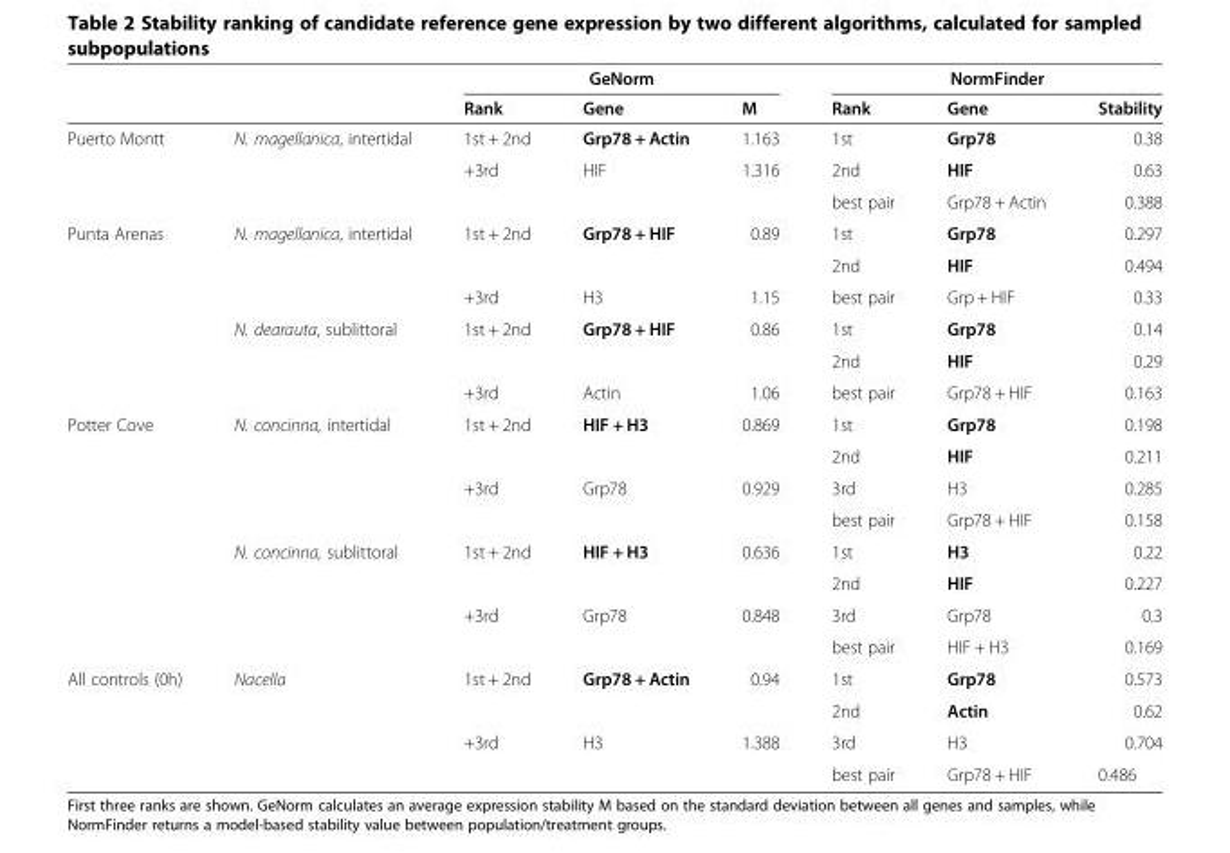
<table><thead><tr><td rowspan="2"></td><td rowspan="2"></td><td colspan="3">GeNorm</td><td colspan="3">NormFinder</td></tr><tr><td>Rank</td><td>Gene</td><td>M</td><td>Rank</td><td>Gene</td><td>Stability</td></tr></thead><tbody><tr><td rowspan="3">Puerto Montt</td><td rowspan="3">N. magellanica, intertidal</td><td>1st + 2nd</td><td>Grp78 + Actin</td><td>1.163</td><td>1st</td><td>Grp78</td><td>0.38</td></tr><tr><td>+3rd</td><td>HIF</td><td>1.316</td><td>2nd</td><td>HIF</td><td>0.63</td></tr><tr><td></td><td></td><td></td><td>best pair</td><td>Grp78 + Actin</td><td>0.388</td></tr><tr><td rowspan="6">Punta Arenas</td><td rowspan="3">N. magellanica, intertidal</td><td rowspan="2">1st + 2nd</td><td rowspan="2">Grp78 + HIF</td><td rowspan="2">0.89</td><td>1st</td><td>Grp78</td><td>0.297</td></tr><tr><td>2nd</td><td>HIF</td><td>0.494</td></tr><tr><td>+3rd</td><td>H3</td><td>1.15</td><td>best pair</td><td>Grp + HIF</td><td>0.33</td></tr><tr><td rowspan="3">N. dearauta, sublittoral</td><td rowspan="2">1st + 2nd</td><td rowspan="2">Grp78 + HIF</td><td rowspan="2">0.86</td><td>1st</td><td>Grp78</td><td>0.14</td></tr><tr><td>2nd</td><td>HIF</td><td>0.29</td></tr><tr><td>+3rd</td><td>Actin</td><td>1.06</td><td>best pair</td><td>Grp78 + HIF</td><td>0.163</td></tr><tr><td rowspan="8">Potter Cove</td><td rowspan="4">N. concinna, intertidal</td><td rowspan="2">1st + 2nd</td><td rowspan="2">HIF + H3</td><td rowspan="2">0.869</td><td>1st</td><td>Grp78</td><td>0.198</td></tr><tr><td>2nd</td><td>HIF</td><td>0.211</td></tr><tr><td>+3rd</td><td>Grp78</td><td>0.929</td><td>3rd</td><td>H3</td><td>0.285</td></tr><tr><td></td><td></td><td></td><td>best pair</td><td>Grp78 + HIF</td><td>0.158</td></tr><tr><td rowspan="4">N. concinna, sublittoral</td><td rowspan="2">1st + 2nd</td><td rowspan="2">HIF + H3</td><td rowspan="2">0.636</td><td>1st</td><td>H3</td><td>0.22</td></tr><tr><td>2nd</td><td>HIF</td><td>0.227</td></tr><tr><td>+3rd</td><td>Grp78</td><td>0.848</td><td>3rd</td><td>Grp78</td><td>0.3</td></tr><tr><td></td><td></td><td></td><td>best pair</td><td>HIF + H3</td><td>0.169</td></tr><tr><td rowspan="3">All controls (0h)</td><td rowspan="3">Nacella</td><td rowspan="2">1st + 2nd</td><td rowspan="2">Grp78 + Actin</td><td rowspan="2">0.94</td><td>1st</td><td>Grp78</td><td>0.573</td></tr><tr><td>2nd</td><td>Actin</td><td>0.62</td></tr><tr><td>+3rd</td><td>H3</td><td>1.388</td><td>3rd</td><td>H3</td><td>0.704</td></tr><tr><td colspan="2"></td><td></td><td></td><td></td><td>best pair</td><td>Grp78 + HIF</td><td>0.486</td></tr></tbody></table>